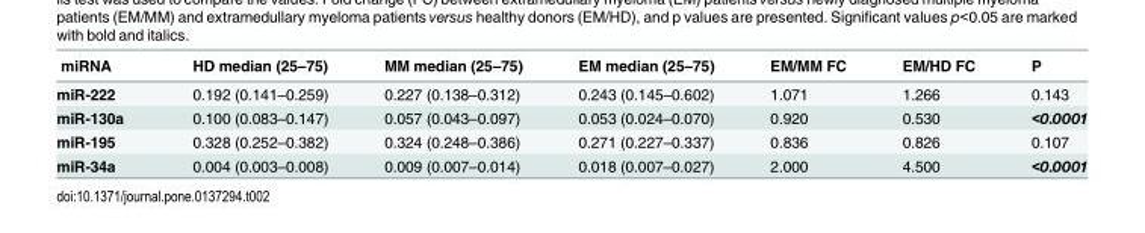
<table><thead><tr><td>miRNA</td><td>HD median (25–75)</td><td>MM median (25–75)</td><td>EM median (25–75)</td><td>EM/MM FC</td><td>EM/HD FC</td><td>P</td></tr></thead><tbody><tr><td>miR-222</td><td>0.192 (0.141–0.259)</td><td>0.227 (0.138–0.312)</td><td>0.243 (0.145–0.602)</td><td>1.071</td><td>1.266</td><td>0.143</td></tr><tr><td>miR-130a</td><td>0.100 (0.083–0.147)</td><td>0.057 (0.043–0.097)</td><td>0.053 (0.024–0.070)</td><td>0.920</td><td>0.530</td><td>&lt;0.0001</td></tr><tr><td>miR-195</td><td>0.328 (0.252–0.382)</td><td>0.324 (0.248–0.386)</td><td>0.271 (0.227–0.337)</td><td>0.836</td><td>0.826</td><td>0.107</td></tr><tr><td>miR-34a</td><td>0.004 (0.003–0.008)</td><td>0.009 (0.007–0.014)</td><td>0.018 (0.007–0.027)</td><td>2.000</td><td>4.500</td><td>&lt;0.0001</td></tr></tbody></table>